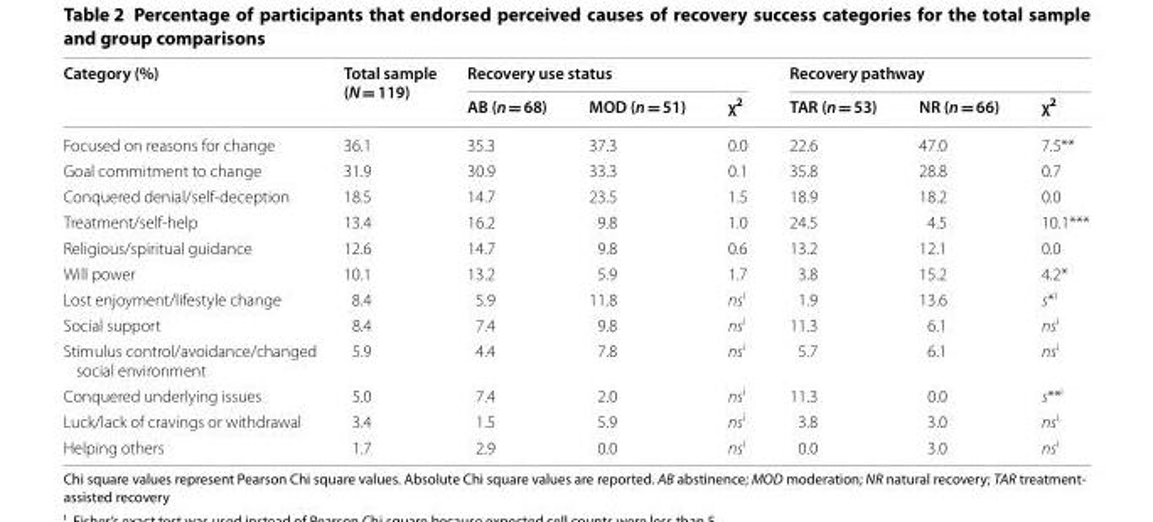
<table><thead><tr><td rowspan="2">Category (%)</td><td rowspan="2">Total sample (N = 119)</td><td colspan="3">Recovery use status</td><td colspan="3">Recovery pathway</td></tr><tr><td>AB (n = 68)</td><td>MOD (n = 51)</td><td>χ<sup>2</sup></td><td>TAR (n = 53)</td><td>NR (n = 66)</td><td>χ<sup>2</sup></td></tr></thead><tbody><tr><td>Focused on reasons for change</td><td>36.1</td><td>35.3</td><td>37.3</td><td>0.0</td><td>22.6</td><td>47.0</td><td>7.5**</td></tr><tr><td>Goal commitment to change</td><td>31.9</td><td>30.9</td><td>33.3</td><td>0.1</td><td>35.8</td><td>28.8</td><td>0.7</td></tr><tr><td>Conquered denial/self-deception</td><td>18.5</td><td>14.7</td><td>23.5</td><td>1.5</td><td>18.9</td><td>18.2</td><td>0.0</td></tr><tr><td>Treatment/self-help</td><td>13.4</td><td>16.2</td><td>9.8</td><td>1.0</td><td>24.5</td><td>4.5</td><td>10.1***</td></tr><tr><td>Religious/spiritual guidance</td><td>12.6</td><td>14.7</td><td>9.8</td><td>0.6</td><td>13.2</td><td>12.1</td><td>0.0</td></tr><tr><td>Will power</td><td>10.1</td><td>13.2</td><td>5.9</td><td>1.7</td><td>3.8</td><td>15.2</td><td>4.2*</td></tr><tr><td>Lost enjoyment/lifestyle change</td><td>8.4</td><td>5.9</td><td>11.8</td><td>ns<sup>i</sup></td><td>1.9</td><td>13.6</td><td>s*<sup>i</sup></td></tr><tr><td>Social support</td><td>8.4</td><td>7.4</td><td>9.8</td><td>ns<sup>i</sup></td><td>11.3</td><td>6.1</td><td>ns<sup>i</sup></td></tr><tr><td>Stimulus control/avoidance/changed social environment</td><td>5.9</td><td>4.4</td><td>7.8</td><td>ns<sup>i</sup></td><td>5.7</td><td>6.1</td><td>ns<sup>i</sup></td></tr><tr><td>Conquered underlying issues</td><td>5.0</td><td>7.4</td><td>2.0</td><td>ns<sup>i</sup></td><td>11.3</td><td>0.0</td><td>s**<sup>i</sup></td></tr><tr><td>Luck/lack of cravings or withdrawal</td><td>3.4</td><td>1.5</td><td>5.9</td><td>ns<sup>i</sup></td><td>3.8</td><td>3.0</td><td>ns<sup>i</sup></td></tr><tr><td>Helping others</td><td>1.7</td><td>2.9</td><td>0.0</td><td>ns<sup>i</sup></td><td>0.0</td><td>3.0</td><td>ns<sup>i</sup></td></tr></tbody></table>